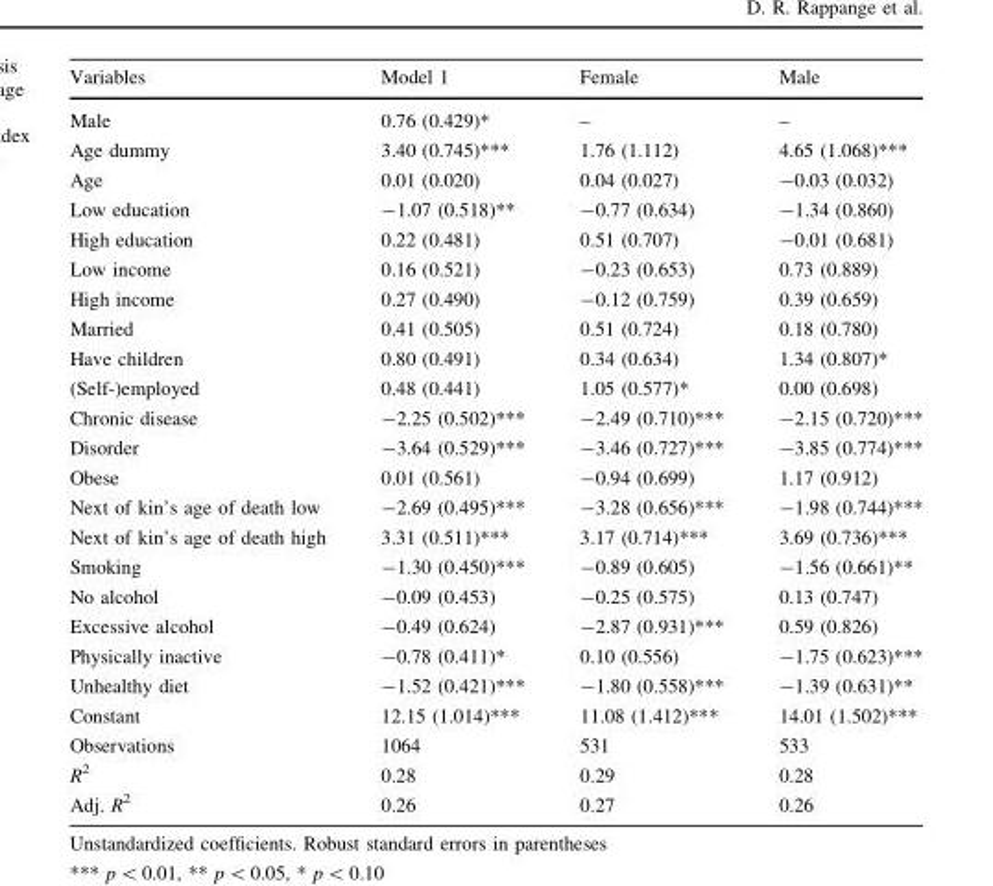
<table><thead><tr><td>Variables</td><td>Model 1</td><td>Female</td><td>Male</td></tr></thead><tbody><tr><td>Male</td><td>0.76 (0.429)*</td><td>–</td><td>–</td></tr><tr><td>Age dummy</td><td>3.40 (0.745)***</td><td>1.76 (1.112)</td><td>4.65 (1.068)***</td></tr><tr><td>Age</td><td>0.01 (0.020)</td><td>0.04 (0.027)</td><td>-0.03 (0.032)</td></tr><tr><td>Low education</td><td>-1.07 (0.518)**</td><td>-0.77 (0.634)</td><td>-1.34 (0.860)</td></tr><tr><td>High education</td><td>0.22 (0.481)</td><td>0.51 (0.707)</td><td>-0.01 (0.681)</td></tr><tr><td>Low income</td><td>0.16 (0.521)</td><td>-0.23 (0.653)</td><td>0.73 (0.889)</td></tr><tr><td>High income</td><td>0.27 (0.490)</td><td>-0.12 (0.759)</td><td>0.39 (0.659)</td></tr><tr><td>Married</td><td>0.41 (0.505)</td><td>0.51 (0.724)</td><td>0.18 (0.780)</td></tr><tr><td>Have children</td><td>0.80 (0.491)</td><td>0.34 (0.634)</td><td>1.34 (0.807)*</td></tr><tr><td>(Self-)employed</td><td>0.48 (0.441)</td><td>1.05 (0.577)*</td><td>0.00 (0.698)</td></tr><tr><td>Chronic disease</td><td>-2.25 (0.502)***</td><td>-2.49 (0.710)***</td><td>-2.15 (0.720)***</td></tr><tr><td>Disorder</td><td>-3.64 (0.529)***</td><td>-3.46 (0.727)***</td><td>-3.85 (0.774)***</td></tr><tr><td>Obese</td><td>0.01 (0.561)</td><td>-0.94 (0.699)</td><td>1.17 (0.912)</td></tr><tr><td>Next of kin’s age of death low</td><td>-2.69 (0.495)***</td><td>-3.28 (0.656)***</td><td>-1.98 (0.744)***</td></tr><tr><td>Next of kin’s age of death high</td><td>3.31 (0.511)***</td><td>3.17 (0.714)***</td><td>3.69 (0.736)***</td></tr><tr><td>Smoking</td><td>-1.30 (0.450)***</td><td>-0.89 (0.605)</td><td>-1.56 (0.661)**</td></tr><tr><td>No alcohol</td><td>-0.09 (0.453)</td><td>-0.25 (0.575)</td><td>0.13 (0.747)</td></tr><tr><td>Excessive alcohol</td><td>-0.49 (0.624)</td><td>-2.87 (0.931)***</td><td>0.59 (0.826)</td></tr><tr><td>Physically inactive</td><td>-0.78 (0.411)*</td><td>0.10 (0.556)</td><td>-1.75 (0.623)***</td></tr><tr><td>Unhealthy diet</td><td>-1.52 (0.421)***</td><td>-1.80 (0.558)***</td><td>-1.39 (0.631)**</td></tr><tr><td>Constant</td><td>12.15 (1.014)***</td><td>11.08 (1.412)***</td><td>14.01 (1.502)***</td></tr><tr><td>Observations</td><td>1064</td><td>531</td><td>533</td></tr><tr><td>R<sup>2</sup></td><td>0.28</td><td>0.29</td><td>0.28</td></tr><tr><td>Adj. R<sup>2</sup></td><td>0.26</td><td>0.27</td><td>0.26</td></tr></tbody></table>